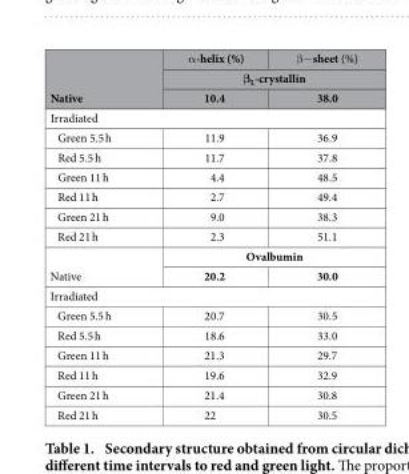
<table><tbody><tr><td rowspan="3">Native</td><td>α -helix (%)</td><td>β − sheet (%)</td></tr><tr><td colspan="2">β<sub>L</sub>-crystallin</td></tr><tr><td>10.4</td><td>38.0</td></tr><tr><td colspan="3">Irradiated</td></tr><tr><td>Green 5.5 h</td><td>11.9</td><td>36.9</td></tr><tr><td>Red 5.5 h</td><td>11.7</td><td>37.8</td></tr><tr><td>Green 11 h</td><td>4.4</td><td>48.5</td></tr><tr><td>Red 11 h</td><td>2.7</td><td>49.4</td></tr><tr><td>Green 21 h</td><td>9.0</td><td>38.3</td></tr><tr><td>Red 21 h</td><td>2.3</td><td>51.1</td></tr><tr><td rowspan="2">Native</td><td colspan="2">Ovalbumin</td></tr><tr><td>20.2</td><td>30.0</td></tr><tr><td colspan="3">Irradiated</td></tr><tr><td>Green 5.5 h</td><td>20.7</td><td>30.5</td></tr><tr><td>Red 5.5 h</td><td>18.6</td><td>33.0</td></tr><tr><td>Green 11 h</td><td>21.3</td><td>29.7</td></tr><tr><td>Red 11 h</td><td>19.6</td><td>32.9</td></tr><tr><td>Green 21 h</td><td>21.4</td><td>30.8</td></tr><tr><td>Red 21 h</td><td>22</td><td>30.5</td></tr></tbody></table>